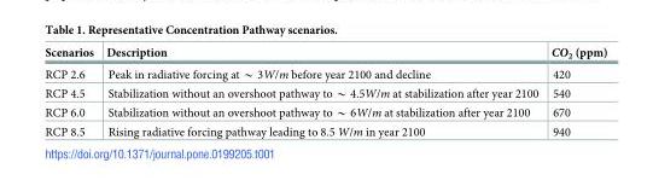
<table><thead><tr><td>Scenarios</td><td>Description</td><td>CO<sub>2</sub> (ppm)</td></tr></thead><tbody><tr><td>RCP 2.6</td><td>Peak in radiative forcing at * 3W/m before year 2100 and decline</td><td>420</td></tr><tr><td>RCP 4.5</td><td>Stabilization without an overshoot pathway to * 4.5W/m at stabilization after year 2100</td><td>540</td></tr><tr><td>RCP 6.0</td><td>Stabilization without an overshoot pathway to * 6W/m at stabilization after year 2100</td><td>670</td></tr><tr><td>RCP 8.5</td><td>Rising radiative forcing pathway leading to 8.5 W/m in year 2100</td><td>940</td></tr></tbody></table>